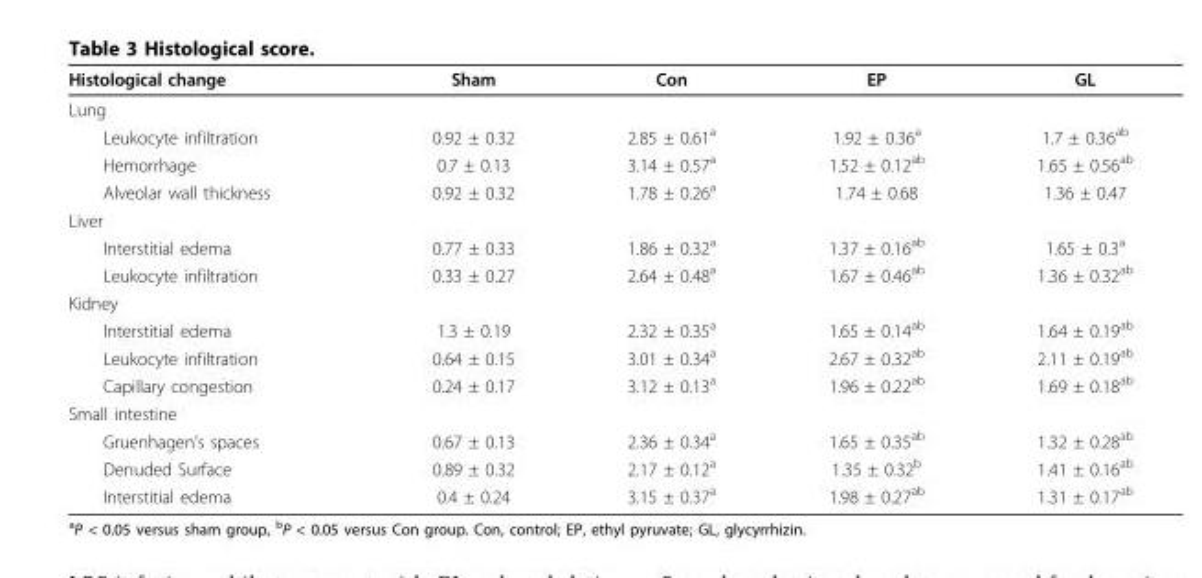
<table><thead><tr><td>Histological change</td><td>Sham</td><td>Con</td><td>EP</td><td>GL</td></tr></thead><tbody><tr><td colspan="5">Lung</td></tr><tr><td>Leukocyte infiltration</td><td>0.92 ± 0.32</td><td>2.85 ± 0.61<sup>a</sup></td><td>1.92 ± 0.36<sup>a</sup></td><td>1.7 ± 0.36<sup>ab</sup></td></tr><tr><td>Hemorrhage</td><td>0.7 ± 0.13</td><td>3.14 ± 0.57<sup>a</sup></td><td>1.52 ± 0.12<sup>ab</sup></td><td>1.65 ± 0.56<sup>ab</sup></td></tr><tr><td>Alveolar wall thickness</td><td>0.92 ± 0.32</td><td>1.78 ± 0.26<sup>a</sup></td><td>1.74 ± 0.68</td><td>1.36 ± 0.47</td></tr><tr><td colspan="5">Liver</td></tr><tr><td>Interstitial edema</td><td>0.77 ± 0.33</td><td>1.86 ± 0.32<sup>a</sup></td><td>1.37 ± 0.16<sup>ab</sup></td><td>1.65 ± 0.3<sup>a</sup></td></tr><tr><td>Leukocyte infiltration</td><td>0.33 ± 0.27</td><td>2.64 ± 0.48<sup>a</sup></td><td>1.67 ± 0.46<sup>ab</sup></td><td>1.36 ± 0.32<sup>ab</sup></td></tr><tr><td colspan="5">Kidney</td></tr><tr><td>Interstitial edema</td><td>1.3 ± 0.19</td><td>2.32 ± 0.35<sup>a</sup></td><td>1.65 ± 0.14<sup>ab</sup></td><td>1.64 ± 0.19<sup>ab</sup></td></tr><tr><td>Leukocyte infiltration</td><td>0.64 ± 0.15</td><td>3.01 ± 0.34<sup>a</sup></td><td>2.67 ± 0.32<sup>ab</sup></td><td>2.11 ± 0.19<sup>ab</sup></td></tr><tr><td>Capillary congestion</td><td>0.24 ± 0.17</td><td>3.12 ± 0.13<sup>a</sup></td><td>1.96 ± 0.22<sup>ab</sup></td><td>1.69 ± 0.18<sup>ab</sup></td></tr><tr><td colspan="5">Small intestine</td></tr><tr><td>Gruenhagen’s spaces</td><td>0.67 ± 0.13</td><td>2.36 ± 0.34<sup>a</sup></td><td>1.65 ± 0.35<sup>ab</sup></td><td>1.32 ± 0.28<sup>ab</sup></td></tr><tr><td>Denuded Surface</td><td>0.89 ± 0.32</td><td>2.17 ± 0.12<sup>a</sup></td><td>1.35 ± 0.32<sup>b</sup></td><td>1.41 ± 0.16<sup>ab</sup></td></tr><tr><td>Interstitial edema</td><td>0.4 ± 0.24</td><td>3.15 ± 0.37<sup>a</sup></td><td>1.98 ± 0.27<sup>ab</sup></td><td>1.31 ± 0.17<sup>ab</sup></td></tr></tbody></table>